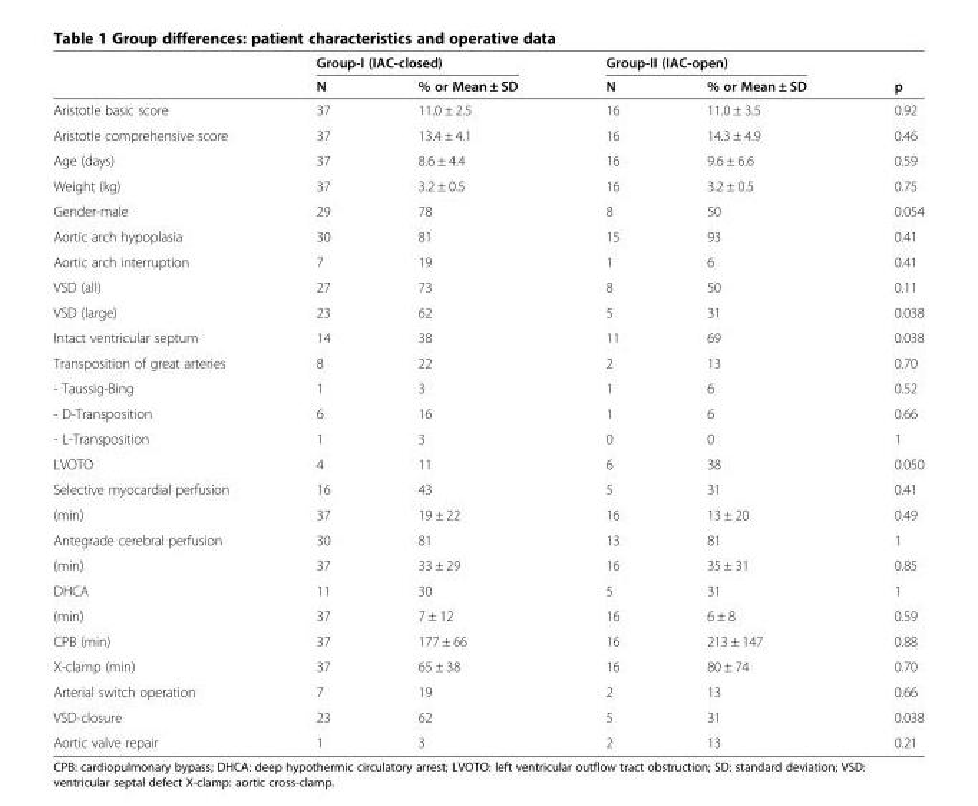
<table><thead><tr><td rowspan="2"></td><td colspan="2">Group-I (IAC-closed)</td><td colspan="2">Group-II (IAC-open)</td><td rowspan="2">p</td></tr><tr><td>N</td><td>% or Mean ± SD</td><td>N</td><td>% or Mean ± SD</td></tr></thead><tbody><tr><td>Aristotle basic score</td><td>37</td><td>11.0 ± 2.5</td><td>16</td><td>11.0 ± 3.5</td><td>0.92</td></tr><tr><td>Aristotle comprehensive score</td><td>37</td><td>13.4 ± 4.1</td><td>16</td><td>14.3 ± 4.9</td><td>0.46</td></tr><tr><td>Age (days)</td><td>37</td><td>8.6 ± 4.4</td><td>16</td><td>9.6 ± 6.6</td><td>0.59</td></tr><tr><td>Weight (kg)</td><td>37</td><td>3.2 ± 0.5</td><td>16</td><td>3.2 ± 0.5</td><td>0.75</td></tr><tr><td>Gender-male</td><td>29</td><td>78</td><td>8</td><td>50</td><td>0.054</td></tr><tr><td>Aortic arch hypoplasia</td><td>30</td><td>81</td><td>15</td><td>93</td><td>0.41</td></tr><tr><td>Aortic arch interruption</td><td>7</td><td>19</td><td>1</td><td>6</td><td>0.41</td></tr><tr><td>VSD (all)</td><td>27</td><td>73</td><td>8</td><td>50</td><td>0.11</td></tr><tr><td>VSD (large)</td><td>23</td><td>62</td><td>5</td><td>31</td><td>0.038</td></tr><tr><td>Intact ventricular septum</td><td>14</td><td>38</td><td>11</td><td>69</td><td>0.038</td></tr><tr><td>Transposition of great arteries</td><td>8</td><td>22</td><td>2</td><td>13</td><td>0.70</td></tr><tr><td>- Taussig-Bing</td><td>1</td><td>3</td><td>1</td><td>6</td><td>0.52</td></tr><tr><td>- D-Transposition</td><td>6</td><td>16</td><td>1</td><td>6</td><td>0.66</td></tr><tr><td>- L-Transposition</td><td>1</td><td>3</td><td>0</td><td>0</td><td>1</td></tr><tr><td>LVOTO</td><td>4</td><td>11</td><td>6</td><td>38</td><td>0.050</td></tr><tr><td>Selective myocardial perfusion</td><td>16</td><td>43</td><td>5</td><td>31</td><td>0.41</td></tr><tr><td>(min)</td><td>37</td><td>19 ± 22</td><td>16</td><td>13 ± 20</td><td>0.49</td></tr><tr><td>Antegrade cerebral perfusion</td><td>30</td><td>81</td><td>13</td><td>81</td><td>1</td></tr><tr><td>(min)</td><td>37</td><td>33 ± 29</td><td>16</td><td>35 ± 31</td><td>0.85</td></tr><tr><td>DHCA</td><td>11</td><td>30</td><td>5</td><td>31</td><td>1</td></tr><tr><td>(min)</td><td>37</td><td>7 ± 12</td><td>16</td><td>6 ± 8</td><td>0.59</td></tr><tr><td>CPB (min)</td><td>37</td><td>177 ± 66</td><td>16</td><td>213 ± 147</td><td>0.88</td></tr><tr><td>X-clamp (min)</td><td>37</td><td>65 ± 38</td><td>16</td><td>80 ± 74</td><td>0.70</td></tr><tr><td>Arterial switch operation</td><td>7</td><td>19</td><td>2</td><td>13</td><td>0.66</td></tr><tr><td>VSD-closure</td><td>23</td><td>62</td><td>5</td><td>31</td><td>0.038</td></tr><tr><td>Aortic valve repair</td><td>1</td><td>3</td><td>2</td><td>13</td><td>0.21</td></tr></tbody></table>